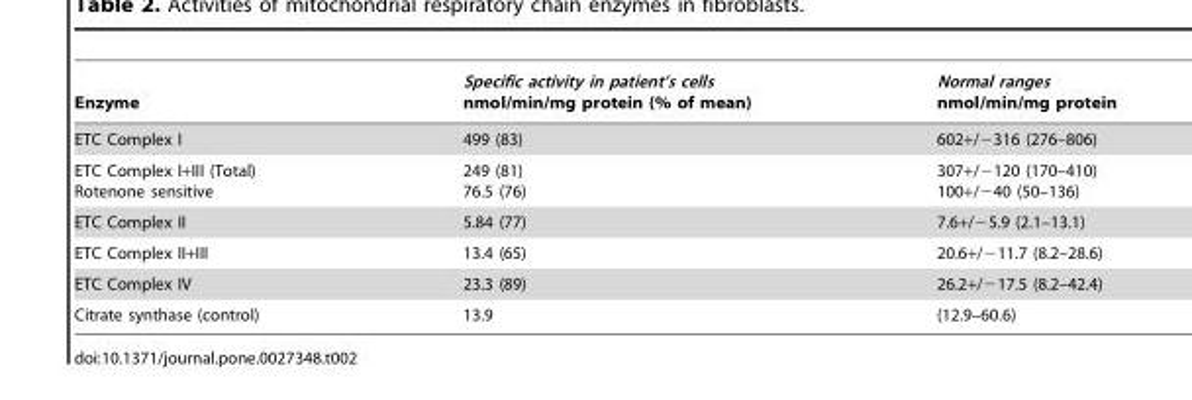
<table><thead><tr><td>Enzyme</td><td>Specific activity in patient’s cells nmol/min/mg protein (% of mean)</td><td>Normal ranges nmol/min/mg protein</td></tr></thead><tbody><tr><td>ETC Complex I</td><td>499 (83)</td><td>602+/−316 (276–806)</td></tr><tr><td>ETC Complex I+III (Total) Rotenone sensitive</td><td>249 (81) 76.5 (76)</td><td>307+/−120 (170–410) 100+/−40 (50–136)</td></tr><tr><td>ETC Complex II</td><td>5.84 (77)</td><td>7.6+/−5.9 (2.1–13.1)</td></tr><tr><td>ETC Complex II+III</td><td>13.4 (65)</td><td>20.6+/−11.7 (8.2–28.6)</td></tr><tr><td>ETC Complex IV</td><td>23.3 (89)</td><td>26.2+/−17.5 (8.2–42.4)</td></tr><tr><td>Citrate synthase (control)</td><td>13.9</td><td>(12.9–60.6)</td></tr></tbody></table>